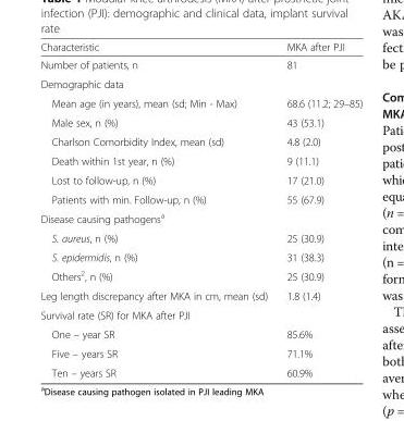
<table><thead><tr><td>Characteristic</td><td>MKA after PJI</td></tr></thead><tbody><tr><td>Number of patients, n</td><td>81</td></tr><tr><td colspan="2">Demographic data</td></tr><tr><td>Mean age (in years), mean (sd; Min - Max)</td><td>68.6 (11.2; 29–85)</td></tr><tr><td>Male sex, n (%)</td><td>43 (53.1)</td></tr><tr><td>Charlson Comorbidity Index, mean (sd)</td><td>4.8 (2.0)</td></tr><tr><td>Death within 1st year, n (%)</td><td>9 (11.1)</td></tr><tr><td>Lost to follow-up, n (%)</td><td>17 (21.0)</td></tr><tr><td>Patients with min. Follow-up, n (%)</td><td>55 (67.9)</td></tr><tr><td colspan="2">Disease causing pathogens<sup>a</sup></td></tr><tr><td>S. aureus, n (%)</td><td>25 (30.9)</td></tr><tr><td>S. epidermidis, n (%)</td><td>31 (38.3)</td></tr><tr><td>Others<sup>2</sup>, n (%)</td><td>25 (30.9)</td></tr><tr><td>Leg length discrepancy after MKA in cm, mean (sd)</td><td>1.8 (1.4)</td></tr><tr><td colspan="2">Survival rate (SR) for MKA after PJI</td></tr><tr><td>One – year SR</td><td>85.6%</td></tr><tr><td>Five – years SR</td><td>71.1%</td></tr><tr><td>Ten – years SR</td><td>60.9%</td></tr></tbody></table>